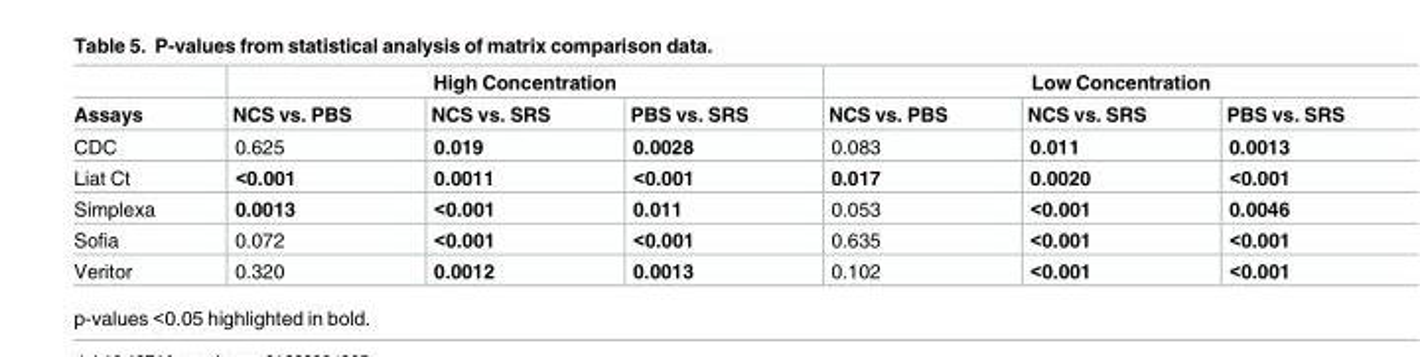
<table><thead><tr><td rowspan="2">Assays</td><td colspan="3">High Concentration</td><td colspan="3">Low Concentration</td></tr><tr><td>NCS vs. PBS</td><td>NCS vs. SRS</td><td>PBS vs. SRS</td><td>NCS vs. PBS</td><td>NCS vs. SRS</td><td>PBS vs. SRS</td></tr></thead><tbody><tr><td>CDC</td><td>0.625</td><td>0.019</td><td>0.0028</td><td>0.083</td><td>0.011</td><td>0.0013</td></tr><tr><td>Liat Ct</td><td>&lt;0.001</td><td>0.0011</td><td>&lt;0.001</td><td>0.017</td><td>0.0020</td><td>&lt;0.001</td></tr><tr><td>Simplexa</td><td>0.0013</td><td>&lt;0.001</td><td>0.011</td><td>0.053</td><td>&lt;0.001</td><td>0.0046</td></tr><tr><td>Sofia</td><td>0.072</td><td>&lt;0.001</td><td>&lt;0.001</td><td>0.635</td><td>&lt;0.001</td><td>&lt;0.001</td></tr><tr><td>Veritor</td><td>0.320</td><td>0.0012</td><td>0.0013</td><td>0.102</td><td>&lt;0.001</td><td>&lt;0.001</td></tr></tbody></table>